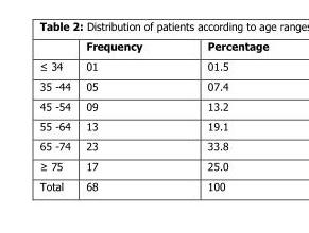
<table><thead><tr><td></td><td>Frequency</td><td>Percentage</td></tr></thead><tbody><tr><td>≤ 34</td><td>01</td><td>01.5</td></tr><tr><td>35 -44</td><td>05</td><td>07.4</td></tr><tr><td>45 -54</td><td>09</td><td>13.2</td></tr><tr><td>55 -64</td><td>13</td><td>19.1</td></tr><tr><td>65 -74</td><td>23</td><td>33.8</td></tr><tr><td>≥ 75</td><td>17</td><td>25.0</td></tr><tr><td>Total</td><td>68</td><td>100</td></tr></tbody></table>